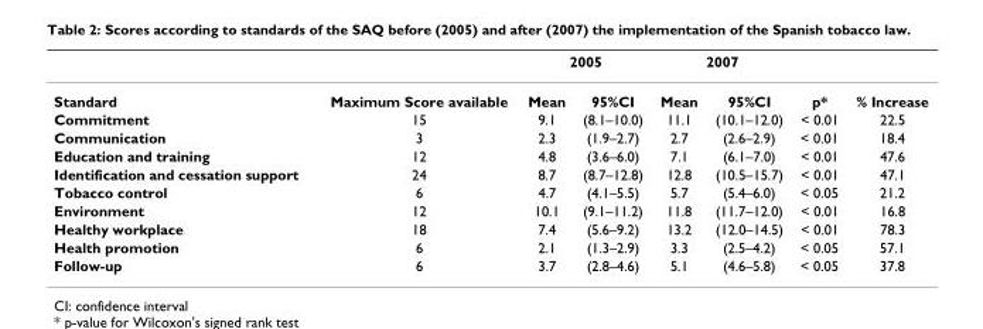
<table><thead><tr><td rowspan="2">Standard</td><td rowspan="2">Maximum Score available</td><td colspan="2">2005</td><td colspan="2">2007</td><td rowspan="2">p*</td><td rowspan="2">% Increase</td></tr><tr><td>Mean</td><td>95%CI</td><td>Mean</td><td>95%CI</td></tr></thead><tbody><tr><td>Commitment</td><td>15</td><td>9.1</td><td>(8.1–10.0)</td><td>11.1</td><td>(10.1–12.0)</td><td>&lt; 0.01</td><td>22.5</td></tr><tr><td>Communication</td><td>3</td><td>2.3</td><td>(1.9–2.7)</td><td>2.7</td><td>(2.6–2.9)</td><td>&lt; 0.01</td><td>18.4</td></tr><tr><td>Education and training</td><td>12</td><td>4.8</td><td>(3.6–6.0)</td><td>7.1</td><td>(6.1–7.0)</td><td>&lt; 0.01</td><td>47.6</td></tr><tr><td>Identification and cessation support</td><td>24</td><td>8.7</td><td>(8.7–12.8)</td><td>12.8</td><td>(10.5–15.7)</td><td>&lt; 0.01</td><td>47.1</td></tr><tr><td>Tobacco control</td><td>6</td><td>4.7</td><td>(4.1–5.5)</td><td>5.7</td><td>(5.4–6.0)</td><td>&lt; 0.05</td><td>21.2</td></tr><tr><td>Environment</td><td>12</td><td>10.1</td><td>(9.1–11.2)</td><td>11.8</td><td>(11.7–12.0)</td><td>&lt; 0.01</td><td>16.8</td></tr><tr><td>Healthy workplace</td><td>18</td><td>7.4</td><td>(5.6–9.2)</td><td>13.2</td><td>(12.0–14.5)</td><td>&lt; 0.01</td><td>78.3</td></tr><tr><td>Health promotion</td><td>6</td><td>2.1</td><td>(1.3–2.9)</td><td>3.3</td><td>(2.5–4.2)</td><td>&lt; 0.05</td><td>57.1</td></tr><tr><td>Follow-up</td><td>6</td><td>3.7</td><td>(2.8–4.6)</td><td>5.1</td><td>(4.6–5.8)</td><td>&lt; 0.05</td><td>37.8</td></tr></tbody></table>